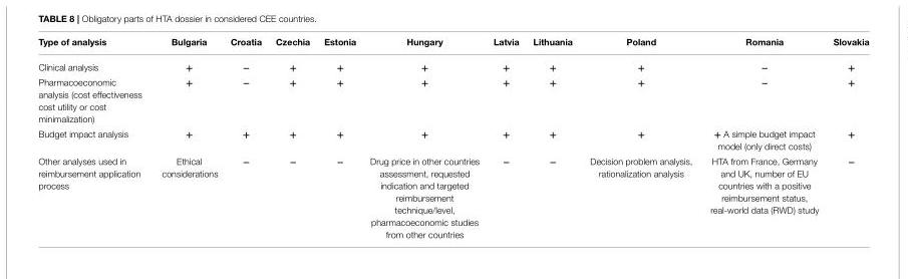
<table><thead><tr><td>Type of analysis</td><td>Bulgaria</td><td>Croatia</td><td>Czechia</td><td>Estonia</td><td>Hungary</td><td>Latvia</td><td>Lithuania</td><td>Poland</td><td>Romania</td><td>Slovakia</td></tr></thead><tbody><tr><td>Clinical analysis</td><td>+</td><td>−</td><td>+</td><td>+</td><td>+</td><td>+</td><td>+</td><td>+</td><td>−</td><td>+</td></tr><tr><td>Pharmacoeconomic analysis (cost effectiveness cost utility or cost minimalization)</td><td>+</td><td>−</td><td>+</td><td>+</td><td>+</td><td>+</td><td>+</td><td>+</td><td>−</td><td>+</td></tr><tr><td>Budget impact analysis</td><td>+</td><td>+</td><td>+</td><td>+</td><td>+</td><td>+</td><td>+</td><td>+</td><td>+ A simple budget impact model (only direct costs)</td><td>+</td></tr><tr><td>Other analyses used in reimbursement application process</td><td>Ethical considerations</td><td>−</td><td>−</td><td>−</td><td>Drug price in other countries assessment, requested indication and targeted reimbursement technique/level, pharmacoeconomic studies from other countries</td><td>−</td><td>−</td><td>Decision problem analysis, rationalization analysis</td><td>HTA from France, Germany and UK, number of EU countries with a positive reimbursement status, real-world data (RWD) study</td><td>−</td></tr></tbody></table>